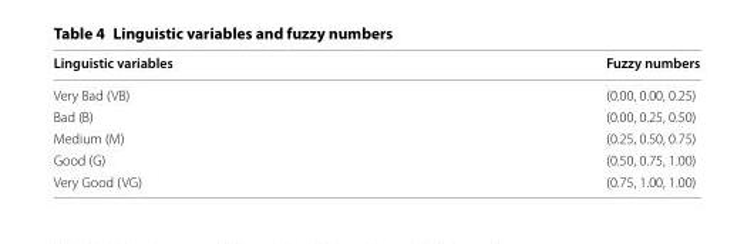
<table><thead><tr><td>Linguistic variables</td><td>Fuzzy numbers</td></tr></thead><tbody><tr><td>Very Bad (VB)</td><td>(0.00, 0.00, 0.25)</td></tr><tr><td>Bad (B)</td><td>(0.00, 0.25, 0.50)</td></tr><tr><td>Medium (M)</td><td>(0.25, 0.50, 0.75)</td></tr><tr><td>Good (G)</td><td>(0.50, 0.75, 1.00)</td></tr><tr><td>Very Good (VG)</td><td>(0.75, 1.00, 1.00)</td></tr></tbody></table>